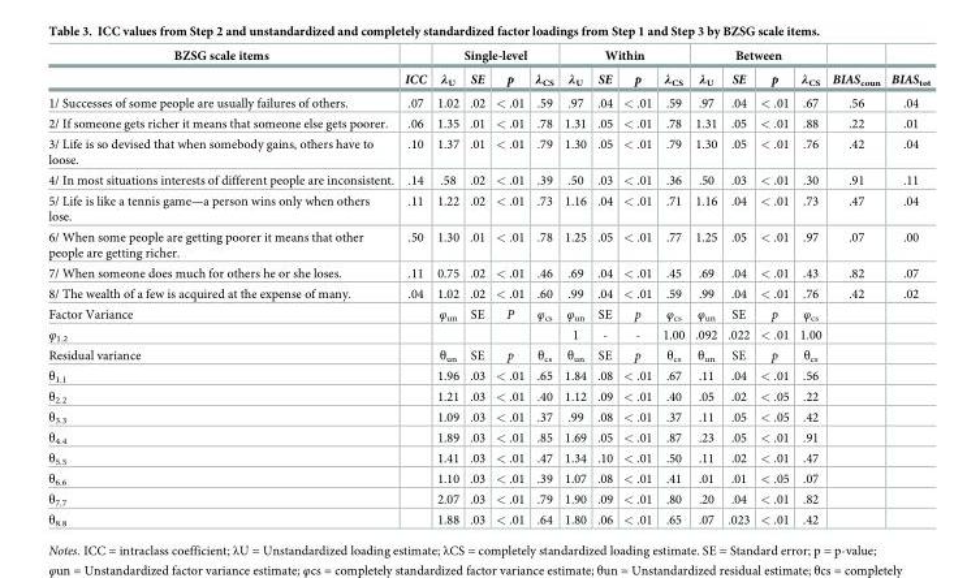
<table><thead><tr><td rowspan="2">BZSG scale items</td><td rowspan="2">ICC</td><td colspan="4">Single-level</td><td colspan="4">Within</td><td colspan="4">Between</td><td rowspan="2">BIAS<sub>coun</sub></td><td rowspan="2">BIAS<sub>tot</sub></td></tr><tr><td>λ<sub>U</sub></td><td>SE</td><td>p</td><td>λ<sub>CS</sub></td><td>λ<sub>U</sub></td><td>SE</td><td>p</td><td>λ<sub>CS</sub></td><td>λ<sub>U</sub></td><td>SE</td><td>p</td><td>λ<sub>CS</sub></td></tr></thead><tbody><tr><td>1/ Successes of some people are usually failures of others.</td><td>.07</td><td>1.02</td><td>.02</td><td>&lt; .01</td><td>.59</td><td>.97</td><td>.04</td><td>&lt; .01</td><td>.59</td><td>.97</td><td>.04</td><td>&lt; .01</td><td>.67</td><td>.56</td><td>.04</td></tr><tr><td>2/ If someone gets richer it means that someone else gets poorer.</td><td>.06</td><td>1.35</td><td>.01</td><td>&lt; .01</td><td>.78</td><td>1.31</td><td>.05</td><td>&lt; .01</td><td>.78</td><td>1.31</td><td>.05</td><td>&lt; .01</td><td>.88</td><td>.22</td><td>.01</td></tr><tr><td>3/ Life is so devised that when somebody gains, others have to loose.</td><td>.10</td><td>1.37</td><td>.01</td><td>&lt; .01</td><td>.79</td><td>1.30</td><td>.05</td><td>&lt; .01</td><td>.79</td><td>1.30</td><td>.05</td><td>&lt; .01</td><td>.76</td><td>.42</td><td>.04</td></tr><tr><td>4/ In most situations interests of different people are inconsistent.</td><td>.14</td><td>.58</td><td>.02</td><td>&lt; .01</td><td>.39</td><td>.50</td><td>.03</td><td>&lt; .01</td><td>.36</td><td>.50</td><td>.03</td><td>&lt; .01</td><td>.30</td><td>.91</td><td>.11</td></tr><tr><td>5/ Life is like a tennis game—a person wins only when others lose.</td><td>.11</td><td>1.22</td><td>.02</td><td>&lt; .01</td><td>.73</td><td>1.16</td><td>.04</td><td>&lt; .01</td><td>.71</td><td>1.16</td><td>.04</td><td>&lt; .01</td><td>.73</td><td>.47</td><td>.04</td></tr><tr><td>6/ When some people are getting poorer it means that other people are getting richer.</td><td>.50</td><td>1.30</td><td>.01</td><td>&lt; .01</td><td>.78</td><td>1.25</td><td>.05</td><td>&lt; .01</td><td>.77</td><td>1.25</td><td>.05</td><td>&lt; .01</td><td>.97</td><td>.07</td><td>.00</td></tr><tr><td>7/ When someone does much for others he or she loses.</td><td>.11</td><td>0.75</td><td>.02</td><td>&lt; .01</td><td>.46</td><td>.69</td><td>.04</td><td>&lt; .01</td><td>.45</td><td>.69</td><td>.04</td><td>&lt; .01</td><td>.43</td><td>.82</td><td>.07</td></tr><tr><td>8/ The wealth of a few is acquired at the expense of many.</td><td>.04</td><td>1.02</td><td>.02</td><td>&lt; .01</td><td>.60</td><td>.99</td><td>.04</td><td>&lt; .01</td><td>.59</td><td>.99</td><td>.04</td><td>&lt; .01</td><td>.76</td><td>.42</td><td>.02</td></tr><tr><td>Factor Variance</td><td></td><td>φ<sub>un</sub></td><td>SE</td><td>P</td><td>φ<sub>cs</sub></td><td>φ<sub>un</sub></td><td>SE</td><td>p</td><td>φ<sub>cs</sub></td><td>φ<sub>un</sub></td><td>SE</td><td>p</td><td>φ<sub>cs</sub></td><td></td><td></td></tr><tr><td>φ<sub>1.2</sub></td><td></td><td></td><td></td><td></td><td></td><td>1</td><td>-</td><td>-</td><td>1.00</td><td>.092</td><td>.022</td><td>&lt; .01</td><td>1.00</td><td></td><td></td></tr><tr><td>Residual variance</td><td></td><td>θ<sub>un</sub></td><td>SE</td><td>p</td><td>θ<sub>cs</sub></td><td>θ<sub>un</sub></td><td>SE</td><td>p</td><td>θ<sub>cs</sub></td><td>θ<sub>un</sub></td><td>SE</td><td>p</td><td>θ<sub>cs</sub></td><td></td><td></td></tr><tr><td>θ<sub>1.1</sub></td><td></td><td>1.96</td><td>.03</td><td>&lt; .01</td><td>.65</td><td>1.84</td><td>.08</td><td>&lt; .01</td><td>.67</td><td>.11</td><td>.04</td><td>&lt; .01</td><td>.56</td><td></td><td></td></tr><tr><td>θ<sub>2.2</sub></td><td></td><td>1.21</td><td>.03</td><td>&lt; .01</td><td>.40</td><td>1.12</td><td>.09</td><td>&lt; .01</td><td>.40</td><td>.05</td><td>.02</td><td>&lt; .05</td><td>.22</td><td></td><td></td></tr><tr><td>θ<sub>3.3</sub></td><td></td><td>1.09</td><td>.03</td><td>&lt; .01</td><td>.37</td><td>.99</td><td>.08</td><td>&lt; .01</td><td>.37</td><td>.11</td><td>.05</td><td>&lt; .05</td><td>.42</td><td></td><td></td></tr><tr><td>θ<sub>4.4</sub></td><td></td><td>1.89</td><td>.03</td><td>&lt; .01</td><td>.85</td><td>1.69</td><td>.05</td><td>&lt; .01</td><td>.87</td><td>.23</td><td>.05</td><td>&lt; .01</td><td>.91</td><td></td><td></td></tr><tr><td>θ<sub>5.5</sub></td><td></td><td>1.41</td><td>.03</td><td>&lt; .01</td><td>.47</td><td>1.34</td><td>.10</td><td>&lt; .01</td><td>.50</td><td>.11</td><td>.02</td><td>&lt; .01</td><td>.47</td><td></td><td></td></tr><tr><td>θ<sub>6.6</sub></td><td></td><td>1.10</td><td>.03</td><td>&lt; .01</td><td>.39</td><td>1.07</td><td>.08</td><td>&lt; .01</td><td>.41</td><td>.01</td><td>.01</td><td>&lt; .05</td><td>.07</td><td></td><td></td></tr><tr><td>θ<sub>7.7</sub></td><td></td><td>2.07</td><td>.03</td><td>&lt; .01</td><td>.79</td><td>1.90</td><td>.09</td><td>&lt; .01</td><td>.80</td><td>.20</td><td>.04</td><td>&lt; .01</td><td>.82</td><td></td><td></td></tr><tr><td>θ<sub>8.8</sub></td><td></td><td>1.88</td><td>.03</td><td>&lt; .01</td><td>.64</td><td>1.80</td><td>.06</td><td>&lt; .01</td><td>.65</td><td>.07</td><td>.023</td><td>&lt; .01</td><td>.42</td><td></td><td></td></tr></tbody></table>